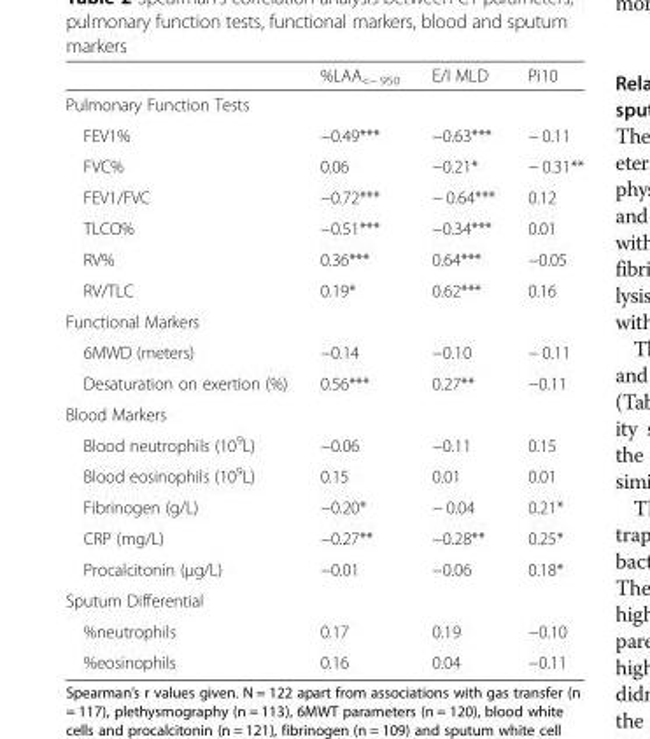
<table><thead><tr><td></td><td>%LAA<sub>&lt;− 950</sub></td><td>E/I MLD</td><td>Pi10</td></tr></thead><tbody><tr><td colspan="4">Pulmonary Function Tests</td></tr><tr><td>FEV1%</td><td>−0.49***</td><td>−0.63***</td><td>− 0.11</td></tr><tr><td>FVC%</td><td>0.06</td><td>−0.21*</td><td>− 0.31**</td></tr><tr><td>FEV1/FVC</td><td>−0.72***</td><td>− 0.64***</td><td>0.12</td></tr><tr><td>TLCO%</td><td>−0.51***</td><td>−0.34***</td><td>0.01</td></tr><tr><td>RV%</td><td>0.36***</td><td>0.64***</td><td>−0.05</td></tr><tr><td>RV/TLC</td><td>0.19*</td><td>0.62***</td><td>0.16</td></tr><tr><td colspan="4">Functional Markers</td></tr><tr><td>6MWD (meters)</td><td>−0.14</td><td>−0.10</td><td>− 0.11</td></tr><tr><td>Desaturation on exertion (%)</td><td>0.56***</td><td>0.27**</td><td>−0.11</td></tr><tr><td colspan="4">Blood Markers</td></tr><tr><td>Blood neutrophils (10<sup>9</sup>L)</td><td>−0.06</td><td>−0.11</td><td>0.15</td></tr><tr><td>Blood eosinophils (10<sup>9</sup>L)</td><td>0.15</td><td>0.01</td><td>0.01</td></tr><tr><td>Fibrinogen (g/L)</td><td>−0.20*</td><td>− 0.04</td><td>0.21*</td></tr><tr><td>CRP (mg/L)</td><td>−0.27**</td><td>−0.28**</td><td>0.25*</td></tr><tr><td>Procalcitonin (μg/L)</td><td>−0.01</td><td>−0.06</td><td>0.18*</td></tr><tr><td colspan="4">Sputum Differential</td></tr><tr><td>%neutrophils</td><td>0.17</td><td>0.19</td><td>−0.10</td></tr><tr><td>%eosinophils</td><td>0.16</td><td>0.04</td><td>−0.11</td></tr></tbody></table>